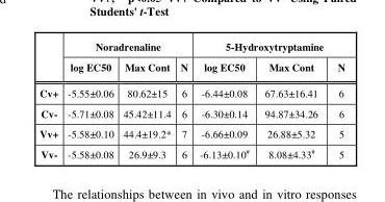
<table><thead><tr><td rowspan="2"></td><td colspan="3">Noradrenaline</td><td colspan="3">5-Hydroxytryptamine</td></tr><tr><td>log EC50</td><td>Max Cont</td><td>N</td><td>log EC50</td><td>Max Cont</td><td>N</td></tr></thead><tbody><tr><td>Cv+</td><td>-5.55±0.06</td><td>80.62±15</td><td>6</td><td>-6.44±0.08</td><td>67.63±16.41</td><td>6</td></tr><tr><td>Cv-</td><td>-5.71±0.08</td><td>45.42±11.4</td><td>6</td><td>-6.30±0.14</td><td>94.87±34.26</td><td>6</td></tr><tr><td>Vv+</td><td>-5.58±0.10</td><td>44.4±19.2*</td><td>7</td><td>-6.66±0.09</td><td>26.88±5.32</td><td>5</td></tr><tr><td>Vv-</td><td>-5.58±0.08</td><td>26.9±9.3</td><td>6</td><td>-6.13±0.10<sup>#</sup></td><td>8.08±4.33<sup>#</sup></td><td>5</td></tr></tbody></table>